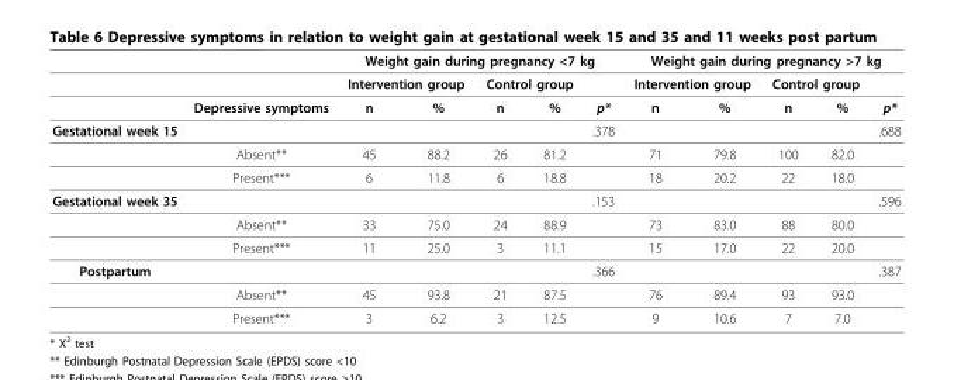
<table><thead><tr><td rowspan="3"></td><td rowspan="3">Depressive symptoms</td><td colspan="5">Weight gain during pregnancy &lt;7 kg</td><td colspan="5">Weight gain during pregnancy &gt;7 kg</td></tr><tr><td colspan="2">Intervention group</td><td colspan="2">Control group</td><td rowspan="2">p*</td><td colspan="2">Intervention group</td><td colspan="2">Control group</td><td rowspan="2">p*</td></tr><tr><td>n</td><td>%</td><td>n</td><td>%</td><td>n</td><td>%</td><td>n</td><td>%</td></tr></thead><tbody><tr><td rowspan="3">Gestational week 15</td><td></td><td></td><td></td><td></td><td></td><td>.378</td><td></td><td></td><td></td><td></td><td>.688</td></tr><tr><td>Absent**</td><td>45</td><td>88.2</td><td>26</td><td>81.2</td><td></td><td>71</td><td>79.8</td><td>100</td><td>82.0</td><td></td></tr><tr><td>Present***</td><td>6</td><td>11.8</td><td>6</td><td>18.8</td><td></td><td>18</td><td>20.2</td><td>22</td><td>18.0</td><td></td></tr><tr><td rowspan="3">Gestational week 35</td><td></td><td></td><td></td><td></td><td></td><td>.153</td><td></td><td></td><td></td><td></td><td>.596</td></tr><tr><td>Absent**</td><td>33</td><td>75.0</td><td>24</td><td>88.9</td><td></td><td>73</td><td>83.0</td><td>88</td><td>80.0</td><td></td></tr><tr><td>Present***</td><td>11</td><td>25.0</td><td>3</td><td>11.1</td><td></td><td>15</td><td>17.0</td><td>22</td><td>20.0</td><td></td></tr><tr><td rowspan="3">Postpartum</td><td></td><td></td><td></td><td></td><td></td><td>.366</td><td></td><td></td><td></td><td></td><td>.387</td></tr><tr><td>Absent**</td><td>45</td><td>93.8</td><td>21</td><td>87.5</td><td></td><td>76</td><td>89.4</td><td>93</td><td>93.0</td><td></td></tr><tr><td>Present***</td><td>3</td><td>6.2</td><td>3</td><td>12.5</td><td></td><td>9</td><td>10.6</td><td>7</td><td>7.0</td><td></td></tr></tbody></table>